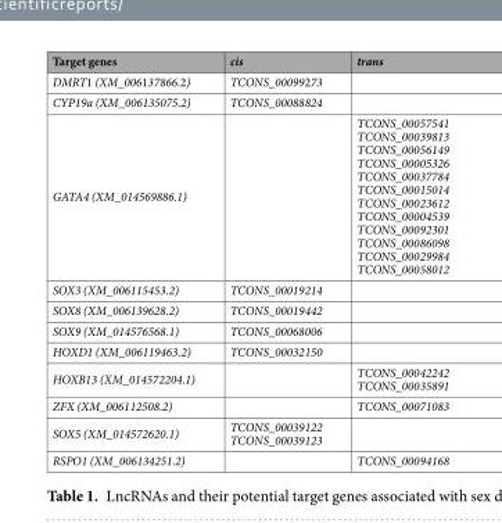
<table><thead><tr><td>Target genes</td><td>cis</td><td>trans</td></tr></thead><tbody><tr><td>DMRT1 (XM_006137866.2)</td><td>TCONS_00099273</td><td></td></tr><tr><td>CYP19a (XM_006135075.2)</td><td>TCONS_00088824</td><td></td></tr><tr><td>GATA4 (XM_014569886.1)</td><td></td><td>TCONS_00057541 TCONS_00039813 TCONS_00056149 TCONS_00005326 TCONS_00037784 TCONS_00015014 TCONS_00023612 TCONS_00004539 TCONS_00092301 TCONS_00086098 TCONS_00029984 TCONS_00058012</td></tr><tr><td>SOX3 (XM_006115453.2)</td><td>TCONS_00019214</td><td></td></tr><tr><td>SOX8 (XM_006139628.2)</td><td>TCONS_00019442</td><td></td></tr><tr><td>SOX9 (XM_014576568.1)</td><td>TCONS_00068006</td><td></td></tr><tr><td>HOXD1 (XM_006119463.2)</td><td>TCONS_00032150</td><td></td></tr><tr><td>HOXB13 (XM_014572204.1)</td><td></td><td>TCONS_00042242 TCONS_00035891</td></tr><tr><td>ZFX (XM_006112508.2)</td><td></td><td>TCONS_00071083</td></tr><tr><td>SOX5 (XM_014572620.1)</td><td>TCONS_00039122 TCONS_00039123</td><td></td></tr><tr><td>RSPO1 (XM_006134251.2)</td><td></td><td>TCONS_00094168</td></tr></tbody></table>